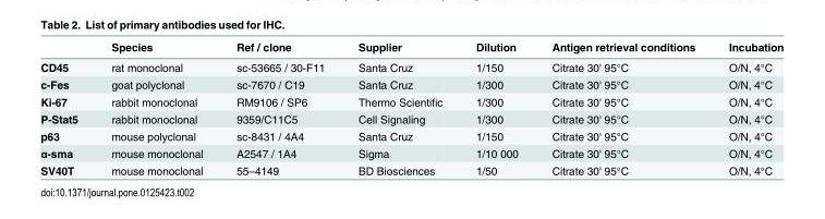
<table><thead><tr><td></td><td>Species</td><td>Ref / clone</td><td>Supplier</td><td>Dilution</td><td>Antigen retrieval conditions</td><td>Incubation</td></tr></thead><tbody><tr><td>CD45</td><td>rat monoclonal</td><td>sc-53665 / 30-F11</td><td>Santa Cruz</td><td>1/150</td><td>Citrate 30&#x27; 95°C</td><td>O/N, 4°C</td></tr><tr><td>c-Fes</td><td>goat polyclonal</td><td>sc-7670 / C19</td><td>Santa Cruz</td><td>1/300</td><td>Citrate 30&#x27; 95°C</td><td>O/N, 4°C</td></tr><tr><td>Ki-67</td><td>rabbit monoclonal</td><td>RM9106 / SP6</td><td>Thermo Scientific</td><td>1/300</td><td>Citrate 30&#x27; 95°C</td><td>O/N, 4°C</td></tr><tr><td>P-Stat5</td><td>rabbit monoclonal</td><td>9359/C11C5</td><td>Cell Signaling</td><td>1/300</td><td>Citrate 30&#x27; 95°C</td><td>O/N, 4°C</td></tr><tr><td>p63</td><td>mouse polyclonal</td><td>sc-8431 / 4A4</td><td>Santa Cruz</td><td>1/150</td><td>Citrate 30&#x27; 95°C</td><td>O/N, 4°C</td></tr><tr><td>α-sma</td><td>mouse monoclonal</td><td>A2547 / 1A4</td><td>Sigma</td><td>1/10 000</td><td>Citrate 30&#x27; 95°C</td><td>O/N, 4°C</td></tr><tr><td>SV40T</td><td>mouse monoclonal</td><td>55–4149</td><td>BD Biosciences</td><td>1/50</td><td>Citrate 30&#x27; 95°C</td><td>O/N, 4°C</td></tr></tbody></table>